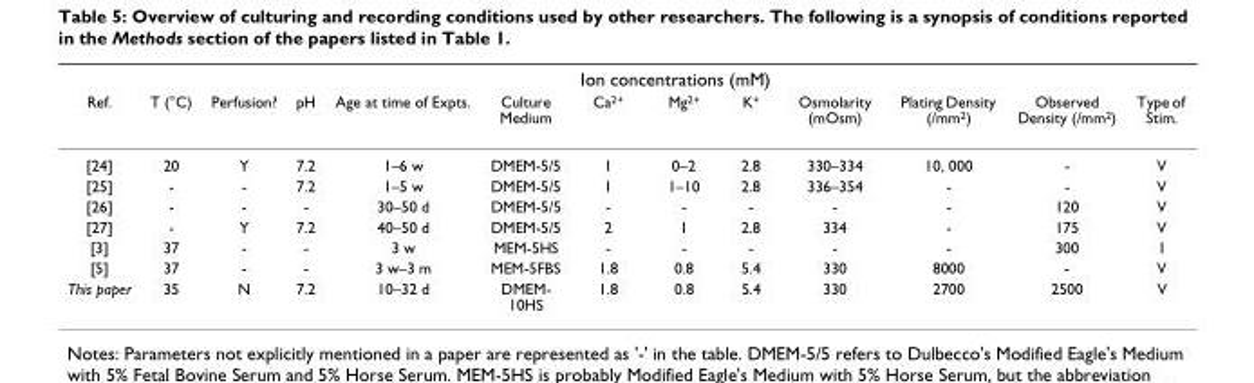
<table><thead><tr><td rowspan="2">Ref.</td><td rowspan="2">T (°C)</td><td rowspan="2">Perfusion?</td><td rowspan="2">pH</td><td rowspan="2">Age at time of Expts.</td><td rowspan="2">Culture Medium</td><td colspan="3">Ion concentrations (mM)</td><td rowspan="2">Osmolarity (mOsm)</td><td rowspan="2">Plating Density (/mm<sup>2</sup>)</td><td rowspan="2">Observed Density (/mm<sup>2</sup>)</td><td rowspan="2">Type of Stim.</td></tr><tr><td>Ca<sup>2+</sup></td><td>Mg<sup>2+</sup></td><td>K<sup>+</sup></td></tr></thead><tbody><tr><td>[24]</td><td>20</td><td>Y</td><td>7.2</td><td>1–6 w</td><td>DMEM-5/5</td><td>1</td><td>0–2</td><td>2.8</td><td>330–334</td><td>10, 000</td><td>-</td><td>V</td></tr><tr><td>[25]</td><td>-</td><td>-</td><td>7.2</td><td>1–5 w</td><td>DMEM-5/5</td><td>1</td><td>1–10</td><td>2.8</td><td>336–354</td><td>-</td><td>-</td><td>V</td></tr><tr><td>[26]</td><td>-</td><td>-</td><td>-</td><td>30–50 d</td><td>DMEM-5/5</td><td>-</td><td>-</td><td>-</td><td>-</td><td>-</td><td>120</td><td>V</td></tr><tr><td>[27]</td><td>-</td><td>Y</td><td>7.2</td><td>40–50 d</td><td>DMEM-5/5</td><td>2</td><td>1</td><td>2.8</td><td>334</td><td>-</td><td>175</td><td>V</td></tr><tr><td>[3]</td><td>37</td><td>-</td><td>-</td><td>3 w</td><td>MEM-5HS</td><td>-</td><td>-</td><td>-</td><td>-</td><td>-</td><td>300</td><td>I</td></tr><tr><td>[5]</td><td>37</td><td>-</td><td>-</td><td>3 w–3 m</td><td>MEM-5FBS</td><td>1.8</td><td>0.8</td><td>5.4</td><td>330</td><td>8000</td><td>-</td><td>V</td></tr><tr><td>This paper</td><td>35</td><td>N</td><td>7.2</td><td>10–32 d</td><td>DMEM- 10HS</td><td>1.8</td><td>0.8</td><td>5.4</td><td>330</td><td>2700</td><td>2500</td><td>V</td></tr></tbody></table>